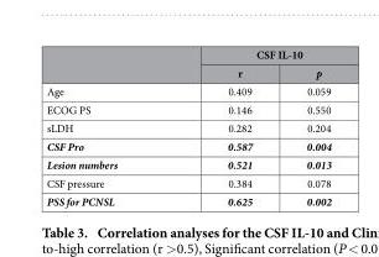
<table><thead><tr><td rowspan="2"></td><td colspan="2">CSF IL-10</td></tr><tr><td>r</td><td>p</td></tr></thead><tbody><tr><td>Age</td><td>0.409</td><td>0.059</td></tr><tr><td>ECOG PS</td><td>0.146</td><td>0.550</td></tr><tr><td>sLDH</td><td>0.282</td><td>0.204</td></tr><tr><td>CSF Pro</td><td>0.587</td><td>0.004</td></tr><tr><td>Lesion numbers</td><td>0.521</td><td>0.013</td></tr><tr><td>CSF pressure</td><td>0.384</td><td>0.078</td></tr><tr><td>PSS for PCNSL</td><td>0.625</td><td>0.002</td></tr></tbody></table>